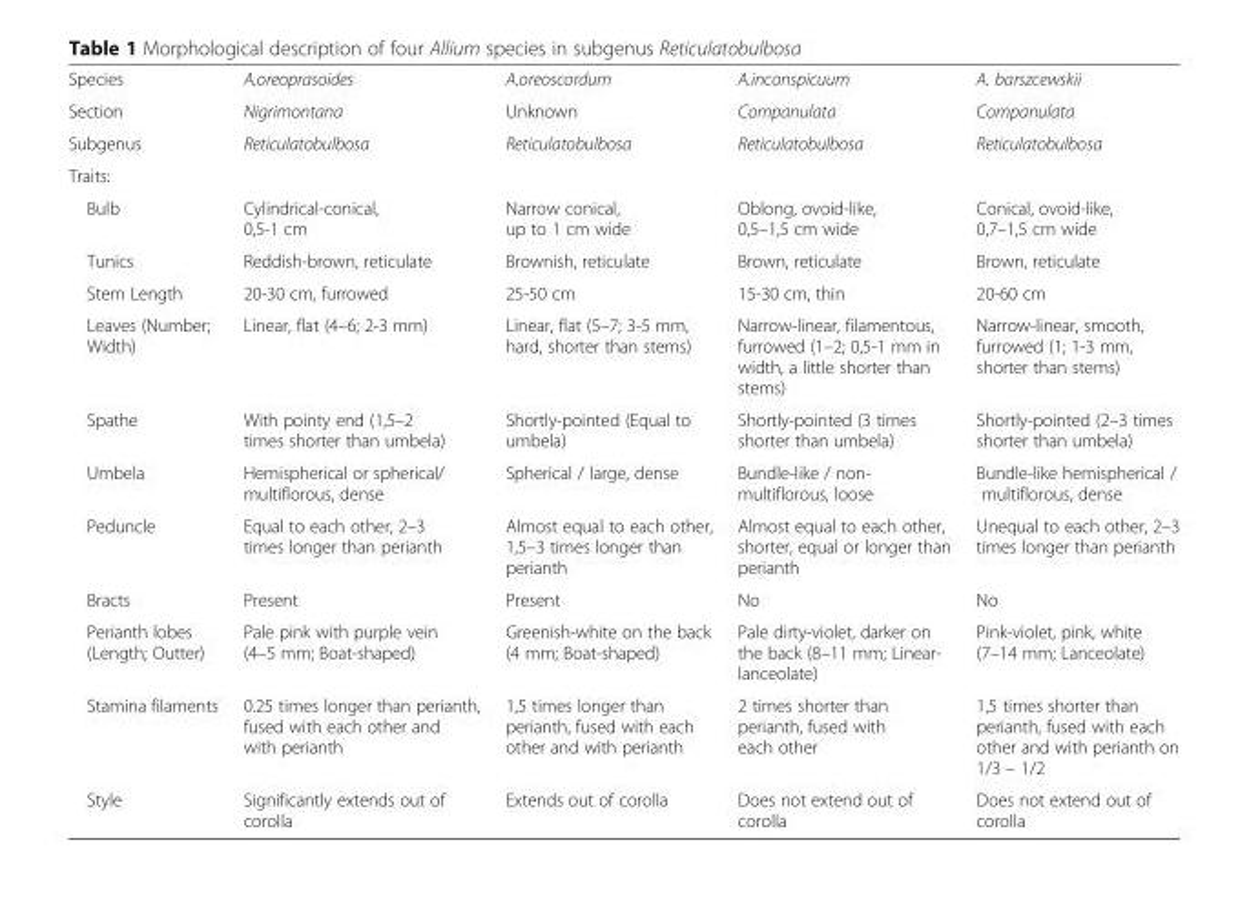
<table><tbody><tr><td>Species</td><td>A.oreoprasoides</td><td>A.oreoscordum</td><td>A.inconspicuum</td><td>A. barszcewskii</td></tr><tr><td>Section</td><td>Nigrimontana</td><td>Unknown</td><td>Companulata</td><td>Companulata</td></tr><tr><td>Subgenus</td><td>Reticulatobulbosa</td><td>Reticulatobulbosa</td><td>Reticulatobulbosa</td><td>Reticulatobulbosa</td></tr><tr><td colspan="5">Traits:</td></tr><tr><td>Bulb</td><td>Cylindrical-conical, 0,5-1 cm</td><td>Narrow conical, up to 1 cm wide</td><td>Oblong, ovoid-like, 0,5–1,5 cm wide</td><td>Conical, ovoid-like, 0,7–1,5 cm wide</td></tr><tr><td>Tunics</td><td>Reddish-brown, reticulate</td><td>Brownish, reticulate</td><td>Brown, reticulate</td><td>Brown, reticulate</td></tr><tr><td>Stem Length</td><td>20-30 cm, furrowed</td><td>25-50 cm</td><td>15-30 cm, thin</td><td>20-60 cm</td></tr><tr><td>Leaves (Number; Width)</td><td>Linear, flat (4–6; 2-3 mm)</td><td>Linear, flat (5–7; 3-5 mm, hard, shorter than stems)</td><td>Narrow-linear, filamentous, furrowed (1–2; 0,5-1 mm in width, a little shorter than stems)</td><td>Narrow-linear, smooth, furrowed (1; 1-3 mm, shorter than stems)</td></tr><tr><td>Spathe</td><td>With pointy end (1,5–2 times shorter than umbela)</td><td>Shortly-pointed (Equal to umbela)</td><td>Shortly-pointed (3 times shorter than umbela)</td><td>Shortly-pointed (2–3 times shorter than umbela)</td></tr><tr><td>Umbela</td><td>Hemispherical or spherical/ multiflorous, dense</td><td>Spherical / large, dense</td><td>Bundle-like / non- multiflorous, loose</td><td>Bundle-like hemispherical / multiflorous, dense</td></tr><tr><td>Peduncle</td><td>Equal to each other, 2–3 times longer than perianth</td><td>Almost equal to each other, 1,5–3 times longer than perianth</td><td>Almost equal to each other, shorter, equal or longer than perianth</td><td>Unequal to each other, 2–3 times longer than perianth</td></tr><tr><td>Bracts</td><td>Present</td><td>Present</td><td>No</td><td>No</td></tr><tr><td>Perianth lobes (Length; Outter)</td><td>Pale pink with purple vein (4–5 mm; Boat-shaped)</td><td>Greenish-white on the back (4 mm; Boat-shaped)</td><td>Pale dirty-violet, darker on the back (8–11 mm; Linear- lanceolate)</td><td>Pink-violet, pink, white (7–14 mm; Lanceolate)</td></tr><tr><td>Stamina filaments</td><td>0.25 times longer than perianth, fused with each other and with perianth</td><td>1,5 times longer than perianth, fused with each other and with perianth</td><td>2 times shorter than perianth, fused with each other</td><td>1,5 times shorter than perianth, fused with each other and with perianth on 1/3 – 1/2</td></tr><tr><td>Style</td><td>Significantly extends out of corolla</td><td>Extends out of corolla</td><td>Does not extend out of corolla</td><td>Does not extend out of corolla</td></tr></tbody></table>